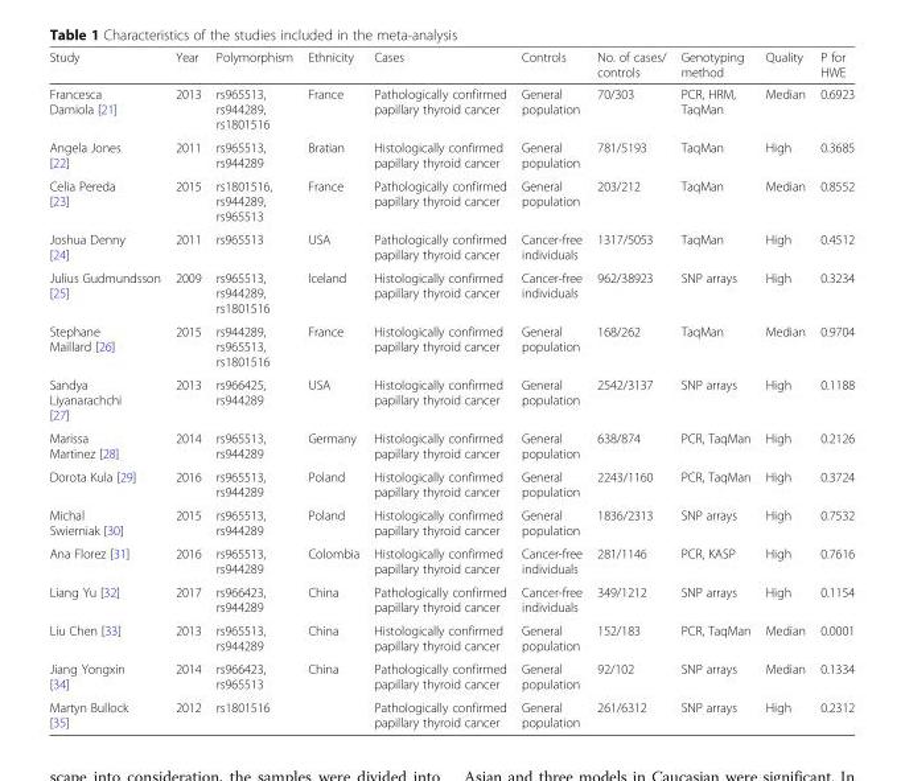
<table><thead><tr><td>Study</td><td>Year</td><td>Polymorphism</td><td>Ethnicity</td><td>Cases</td><td>Controls</td><td>No. of cases/ controls</td><td>Genotyping method</td><td>Quality</td><td>P for HWE</td></tr></thead><tbody><tr><td>Francesca Damiola [21]</td><td>2013</td><td>rs965513, rs944289, rs1801516</td><td>France</td><td>Pathologically confirmed papillary thyroid cancer</td><td>General population</td><td>70/303</td><td>PCR, HRM, TaqMan</td><td>Median</td><td>0.6923</td></tr><tr><td>Angela Jones [22]</td><td>2011</td><td>rs965513, rs944289</td><td>Bratian</td><td>Histologically confirmed papillary thyroid cancer</td><td>General population</td><td>781/5193</td><td>TaqMan</td><td>High</td><td>0.3685</td></tr><tr><td>Celia Pereda [23]</td><td>2015</td><td>rs1801516, rs944289, rs965513</td><td>France</td><td>Pathologically confirmed papillary thyroid cancer</td><td>General population</td><td>203/212</td><td>TaqMan</td><td>Median</td><td>0.8552</td></tr><tr><td>Joshua Denny [24]</td><td>2011</td><td>rs965513</td><td>USA</td><td>Pathologically confirmed papillary thyroid cancer</td><td>Cancer-free individuals</td><td>1317/5053</td><td>TaqMan</td><td>High</td><td>0.4512</td></tr><tr><td>Julius Gudmundsson [25]</td><td>2009</td><td>rs965513, rs944289, rs1801516</td><td>Iceland</td><td>Histologically confirmed papillary thyroid cancer</td><td>Cancer-free individuals</td><td>962/38923</td><td>SNP arrays</td><td>High</td><td>0.3234</td></tr><tr><td>Stephane Maillard [26]</td><td>2015</td><td>rs944289, rs965513, rs1801516</td><td>France</td><td>Histologically confirmed papillary thyroid cancer</td><td>General population</td><td>168/262</td><td>TaqMan</td><td>Median</td><td>0.9704</td></tr><tr><td>Sandya Liyanarachchi [27]</td><td>2013</td><td>rs966425, rs944289</td><td>USA</td><td>Histologically confirmed papillary thyroid cancer</td><td>General population</td><td>2542/3137</td><td>SNP arrays</td><td>High</td><td>0.1188</td></tr><tr><td>Marissa Martinez [28]</td><td>2014</td><td>rs965513, rs944289</td><td>Germany</td><td>Histologically confirmed papillary thyroid cancer</td><td>General population</td><td>638/874</td><td>PCR, TaqMan</td><td>High</td><td>0.2126</td></tr><tr><td>Dorota Kula [29]</td><td>2016</td><td>rs965513, rs944289</td><td>Poland</td><td>Histologically confirmed papillary thyroid cancer</td><td>General population</td><td>2243/1160</td><td>PCR, TaqMan</td><td>High</td><td>0.3724</td></tr><tr><td>Michal Swierniak [30]</td><td>2015</td><td>rs965513, rs944289</td><td>Poland</td><td>Histologically confirmed papillary thyroid cancer</td><td>General population</td><td>1836/2313</td><td>SNP arrays</td><td>High</td><td>0.7532</td></tr><tr><td>Ana Florez [31]</td><td>2016</td><td>rs965513, rs944289</td><td>Colombia</td><td>Histologically confirmed papillary thyroid cancer</td><td>Cancer-free individuals</td><td>281/1146</td><td>PCR, KASP</td><td>High</td><td>0.7616</td></tr><tr><td>Liang Yu [32]</td><td>2017</td><td>rs966423, rs944289</td><td>China</td><td>Pathologically confirmed papillary thyroid cancer</td><td>Cancer-free individuals</td><td>349/1212</td><td>SNP arrays</td><td>High</td><td>0.1154</td></tr><tr><td>Liu Chen [33]</td><td>2013</td><td>rs965513, rs944289</td><td>China</td><td>Histologically confirmed papillary thyroid cancer</td><td>General population</td><td>152/183</td><td>PCR, TaqMan</td><td>Median</td><td>0.0001</td></tr><tr><td>Jiang Yongxin [34]</td><td>2014</td><td>rs966423, rs965513</td><td>China</td><td>Pathologically confirmed papillary thyroid cancer</td><td>General population</td><td>92/102</td><td>SNP arrays</td><td>Median</td><td>0.1334</td></tr><tr><td>Martyn Bullock [35]</td><td>2012</td><td>rs1801516</td><td></td><td>Pathologically confirmed papillary thyroid cancer</td><td>General population</td><td>261/6312</td><td>SNP arrays</td><td>High</td><td>0.2312</td></tr></tbody></table>